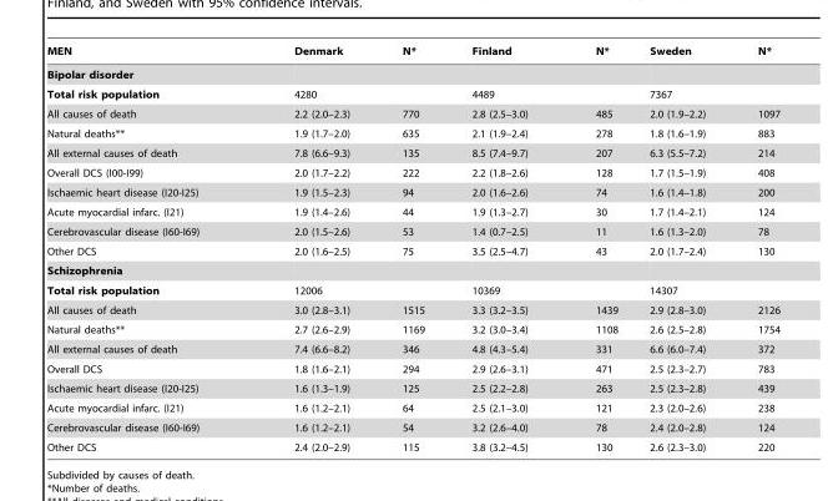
<table><thead><tr><td>MEN</td><td>Denmark</td><td>N*</td><td>Finland</td><td>N*</td><td>Sweden</td><td>N*</td></tr></thead><tbody><tr><td colspan="7">Bipolar disorder</td></tr><tr><td>Total risk population</td><td>4280</td><td></td><td>4489</td><td></td><td>7367</td><td></td></tr><tr><td>All causes of death</td><td>2.2 (2.0–2.3)</td><td>770</td><td>2.8 (2.5–3.0)</td><td>485</td><td>2.0 (1.9–2.2)</td><td>1097</td></tr><tr><td>Natural deaths**</td><td>1.9 (1.7–2.0)</td><td>635</td><td>2.1 (1.9–2.4)</td><td>278</td><td>1.8 (1.6–1.9)</td><td>883</td></tr><tr><td>All external causes of death</td><td>7.8 (6.6–9.3)</td><td>135</td><td>8.5 (7.4–9.7)</td><td>207</td><td>6.3 (5.5–7.2)</td><td>214</td></tr><tr><td>Overall DCS (I00-I99)</td><td>2.0 (1.7–2.2)</td><td>222</td><td>2.2 (1.8–2.6)</td><td>128</td><td>1.7 (1.5–1.9)</td><td>408</td></tr><tr><td>Ischaemic heart disease (I20-I25)</td><td>1.9 (1.5–2.3)</td><td>94</td><td>2.0 (1.6–2.6)</td><td>74</td><td>1.6 (1.4–1.8)</td><td>200</td></tr><tr><td>Acute myocardial infarc. (I21)</td><td>1.9 (1.4–2.6)</td><td>44</td><td>1.9 (1.3–2.7)</td><td>30</td><td>1.7 (1.4–2.1)</td><td>124</td></tr><tr><td>Cerebrovascular disease (I60-I69)</td><td>2.0 (1.5–2.6)</td><td>53</td><td>1.4 (0.7–2.5)</td><td>11</td><td>1.6 (1.3–2.0)</td><td>78</td></tr><tr><td>Other DCS</td><td>2.0 (1.6–2.5)</td><td>75</td><td>3.5 (2.5–4.7)</td><td>43</td><td>2.0 (1.7–2.4)</td><td>130</td></tr><tr><td colspan="7">Schizophrenia</td></tr><tr><td>Total risk population</td><td>12006</td><td></td><td>10369</td><td></td><td>14307</td><td></td></tr><tr><td>All causes of death</td><td>3.0 (2.8–3.1)</td><td>1515</td><td>3.3 (3.2–3.5)</td><td>1439</td><td>2.9 (2.8–3.0)</td><td>2126</td></tr><tr><td>Natural deaths**</td><td>2.7 (2.6–2.9)</td><td>1169</td><td>3.2 (3.0–3.4)</td><td>1108</td><td>2.6 (2.5–2.8)</td><td>1754</td></tr><tr><td>All external causes of death</td><td>7.4 (6.6–8.2)</td><td>346</td><td>4.8 (4.3–5.4)</td><td>331</td><td>6.6 (6.0–7.4)</td><td>372</td></tr><tr><td>Overall DCS</td><td>1.8 (1.6–2.1)</td><td>294</td><td>2.9 (2.6–3.1)</td><td>471</td><td>2.5 (2.3–2.7)</td><td>783</td></tr><tr><td>Ischaemic heart disease (I20-I25)</td><td>1.6 (1.3–1.9)</td><td>125</td><td>2.5 (2.2–2.8)</td><td>263</td><td>2.5 (2.3–2.8)</td><td>439</td></tr><tr><td>Acute myocardial infarc. (I21)</td><td>1.6 (1.2–2.1)</td><td>64</td><td>2.5 (2.1–3.0)</td><td>121</td><td>2.3 (2.0–2.6)</td><td>238</td></tr><tr><td>Cerebrovascular disease (I60-I69)</td><td>1.6 (1.2–2.1)</td><td>54</td><td>3.2 (2.6–4.0)</td><td>78</td><td>2.4 (2.0–2.8)</td><td>124</td></tr><tr><td>Other DCS</td><td>2.4 (2.0–2.9)</td><td>115</td><td>3.8 (3.2–4.5)</td><td>130</td><td>2.6 (2.3–3.0)</td><td>220</td></tr></tbody></table>